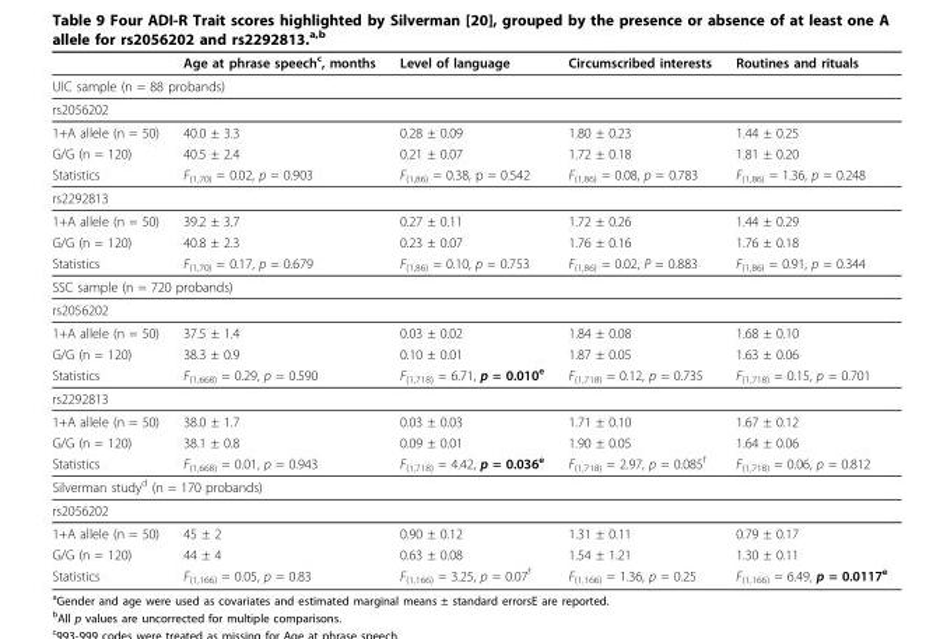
<table><thead><tr><td></td><td>Age at phrase speech<sup>c</sup>, months</td><td>Level of language</td><td>Circumscribed interests</td><td>Routines and rituals</td></tr></thead><tbody><tr><td colspan="5">UIC sample (n = 88 probands)</td></tr><tr><td colspan="5">rs2056202</td></tr><tr><td>1+A allele (n = 50)</td><td>40.0 ± 3.3</td><td>0.28 ± 0.09</td><td>1.80 ± 0.23</td><td>1.44 ± 0.25</td></tr><tr><td>G/G (n = 120)</td><td>40.5 ± 2.4</td><td>0.21 ± 0.07</td><td>1.72 ± 0.18</td><td>1.81 ± 0.20</td></tr><tr><td>Statistics</td><td>F<sub>(1,70)</sub> = 0.02, p = 0.903</td><td>F<sub>(1,86)</sub> = 0.38, p = 0.542</td><td>F<sub>(1,86)</sub> = 0.08, p = 0.783</td><td>F<sub>(1,86)</sub> = 1.36, p = 0.248</td></tr><tr><td colspan="5">rs2292813</td></tr><tr><td>1+A allele (n = 50)</td><td>39.2 ± 3.7</td><td>0.27 ± 0.11</td><td>1.72 ± 0.26</td><td>1.44 ± 0.29</td></tr><tr><td>G/G (n = 120)</td><td>40.8 ± 2.3</td><td>0.23 ± 0.07</td><td>1.76 ± 0.16</td><td>1.76 ± 0.18</td></tr><tr><td>Statistics</td><td>F<sub>(1,70)</sub> = 0.17, p = 0.679</td><td>F<sub>(1,86)</sub> = 0.10, p = 0.753</td><td>F<sub>(1,86)</sub> = 0.02, P = 0.883</td><td>F<sub>(1,86)</sub> = 0.91, p = 0.344</td></tr><tr><td colspan="5">SSC sample (n = 720 probands)</td></tr><tr><td colspan="5">rs2056202</td></tr><tr><td>1+A allele (n = 50)</td><td>37.5 ± 1.4</td><td>0.03 ± 0.02</td><td>1.84 ± 0.08</td><td>1.68 ± 0.10</td></tr><tr><td>G/G (n = 120)</td><td>38.3 ± 0.9</td><td>0.10 ± 0.01</td><td>1.87 ± 0.05</td><td>1.63 ± 0.06</td></tr><tr><td>Statistics</td><td>F<sub>(1,668)</sub> = 0.29, p = 0.590</td><td>F<sub>(1,718)</sub> = 6.71, p = 0.010<sup>e</sup></td><td>F<sub>(1,718)</sub> = 0.12, p = 0.735</td><td>F<sub>(1,718)</sub> = 0.15, p = 0.701</td></tr><tr><td colspan="5">rs2292813</td></tr><tr><td>1+A allele (n = 50)</td><td>38.0 ± 1.7</td><td>0.03 ± 0.03</td><td>1.71 ± 0.10</td><td>1.67 ± 0.12</td></tr><tr><td>G/G (n = 120)</td><td>38.1 ± 0.8</td><td>0.09 ± 0.01</td><td>1.90 ± 0.05</td><td>1.64 ± 0.06</td></tr><tr><td>Statistics</td><td>F<sub>(1,668)</sub> = 0.01, p = 0.943</td><td>F<sub>(1,718)</sub> = 4.42, p = 0.036<sup>e</sup></td><td>F<sub>(1,718)</sub> = 2.97, p = 0.085<sup>f</sup></td><td>F<sub>(1,718)</sub> = 0.06, p = 0.812</td></tr><tr><td colspan="5">Silverman study<sup>d</sup> (n = 170 probands)</td></tr><tr><td colspan="5">rs2056202</td></tr><tr><td>1+A allele (n = 50)</td><td>45 ± 2</td><td>0.90 ± 0.12</td><td>1.31 ± 0.11</td><td>0.79 ± 0.17</td></tr><tr><td>G/G (n = 120)</td><td>44 ± 4</td><td>0.63 ± 0.08</td><td>1.54 ± 1.21</td><td>1.30 ± 0.11</td></tr><tr><td>Statistics</td><td>F<sub>(1,166)</sub> = 0.05, p = 0.83</td><td>F<sub>(1,166)</sub> = 3.25, p = 0.07<sup>f</sup></td><td>F<sub>(1,166)</sub> = 1.36, p = 0.25</td><td>F<sub>(1,166)</sub> = 6.49, p = 0.0117<sup>e</sup></td></tr></tbody></table>